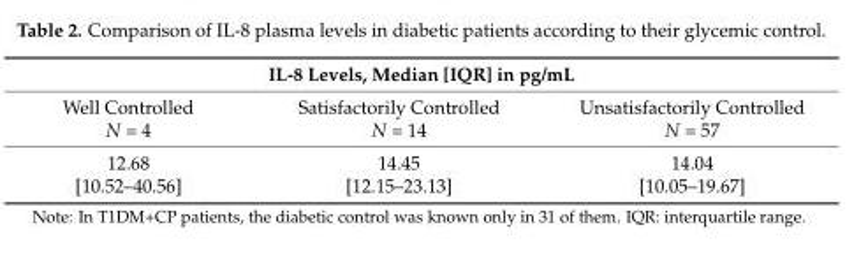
<table><thead><tr><td colspan="3">IL-8 Levels, Median [IQR] in pg/mL</td></tr><tr><td>Well Controlled N = 4</td><td>Satisfactorily Controlled N = 14</td><td>Unsatisfactorily Controlled N = 57</td></tr></thead><tbody><tr><td>12.68 [10.52–40.56]</td><td>14.45 [12.15–23.13]</td><td>14.04 [10.05–19.67]</td></tr></tbody></table>